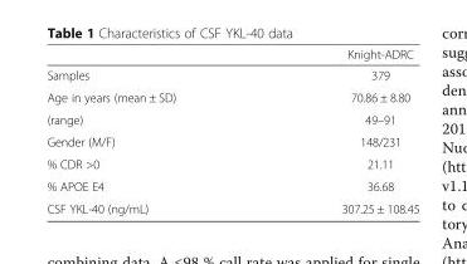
<table><thead><tr><td></td><td>Knight-ADRC</td></tr></thead><tbody><tr><td>Samples</td><td>379</td></tr><tr><td>Age in years (mean ± SD)</td><td>70.86 ± 8.80</td></tr><tr><td>(range)</td><td>49–91</td></tr><tr><td>Gender (M/F)</td><td>148/231</td></tr><tr><td>% CDR &gt;0</td><td>21.11</td></tr><tr><td>% APOE E4</td><td>36.68</td></tr><tr><td>CSF YKL-40 (ng/mL)</td><td>307.25 ± 108.45</td></tr></tbody></table>